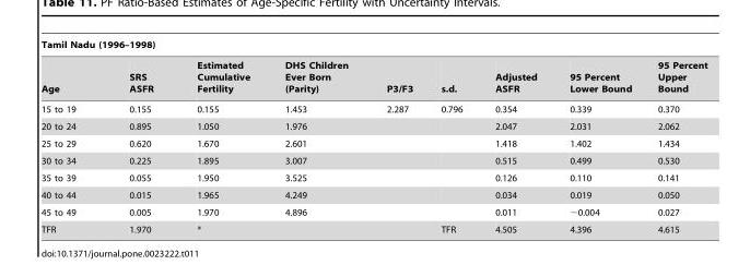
<table><thead><tr><td colspan="9">Tamil Nadu (1996–1998)</td></tr><tr><td>Age</td><td>SRS ASFR</td><td>Estimated Cumulative Fertility</td><td>DHS Children Ever Born (Parity)</td><td>P3/F3</td><td>s.d.</td><td>Adjusted ASFR</td><td>95 Percent Lower Bound</td><td>95 Percent Upper Bound</td></tr></thead><tbody><tr><td>15 to 19</td><td>0.155</td><td>0.155</td><td>1.453</td><td>2.287</td><td>0.796</td><td>0.354</td><td>0.339</td><td>0.370</td></tr><tr><td>20 to 24</td><td>0.895</td><td>1.050</td><td>1.976</td><td></td><td></td><td>2.047</td><td>2.031</td><td>2.062</td></tr><tr><td>25 to 29</td><td>0.620</td><td>1.670</td><td>2.601</td><td></td><td></td><td>1.418</td><td>1.402</td><td>1.434</td></tr><tr><td>30 to 34</td><td>0.225</td><td>1.895</td><td>3.007</td><td></td><td></td><td>0.515</td><td>0.499</td><td>0.530</td></tr><tr><td>35 to 39</td><td>0.055</td><td>1.950</td><td>3.525</td><td></td><td></td><td>0.126</td><td>0.110</td><td>0.141</td></tr><tr><td>40 to 44</td><td>0.015</td><td>1.965</td><td>4.249</td><td></td><td></td><td>0.034</td><td>0.019</td><td>0.050</td></tr><tr><td>45 to 49</td><td>0.005</td><td>1.970</td><td>4.896</td><td></td><td></td><td>0.011</td><td>−0.004</td><td>0.027</td></tr><tr><td>TFR</td><td>1.970</td><td>*</td><td></td><td></td><td>TFR</td><td>4.505</td><td>4.396</td><td>4.615</td></tr></tbody></table>